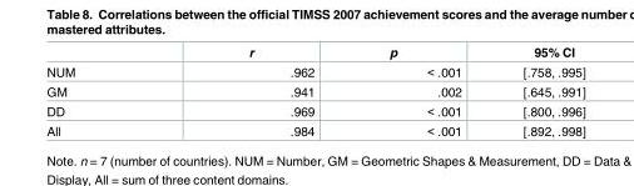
<table><thead><tr><td></td><td>r</td><td>p</td><td>95% CI</td></tr></thead><tbody><tr><td>NUM</td><td>.962</td><td>&lt; .001</td><td>[.758, .995]</td></tr><tr><td>GM</td><td>.941</td><td>.002</td><td>[.645, .991]</td></tr><tr><td>DD</td><td>.969</td><td>&lt; .001</td><td>[.800, .996]</td></tr><tr><td>All</td><td>.984</td><td>&lt; .001</td><td>[.892, .998]</td></tr></tbody></table>